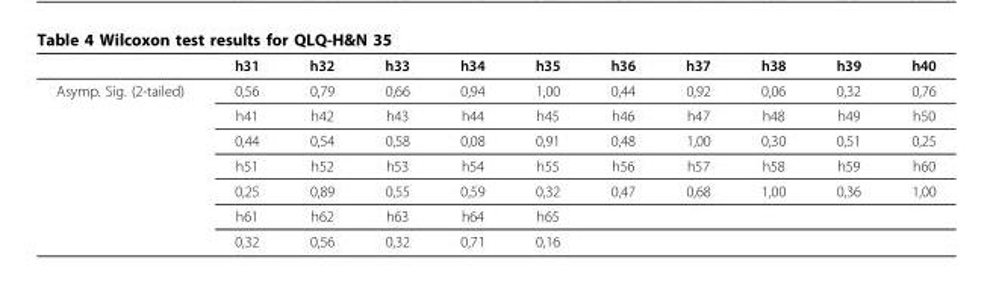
<table><thead><tr><td></td><td>h31</td><td>h32</td><td>h33</td><td>h34</td><td>h35</td><td>h36</td><td>h37</td><td>h38</td><td>h39</td><td>h40</td></tr></thead><tbody><tr><td rowspan="7">Asymp. Sig. (2-tailed)</td><td>0,56</td><td>0,79</td><td>0,66</td><td>0,94</td><td>1,00</td><td>0,44</td><td>0,92</td><td>0,06</td><td>0,32</td><td>0,76</td></tr><tr><td>h41</td><td>h42</td><td>h43</td><td>h44</td><td>h45</td><td>h46</td><td>h47</td><td>h48</td><td>h49</td><td>h50</td></tr><tr><td>0,44</td><td>0,54</td><td>0,58</td><td>0,08</td><td>0,91</td><td>0,48</td><td>1,00</td><td>0,30</td><td>0,51</td><td>0,25</td></tr><tr><td>h51</td><td>h52</td><td>h53</td><td>h54</td><td>h55</td><td>h56</td><td>h57</td><td>h58</td><td>h59</td><td>h60</td></tr><tr><td>0,25</td><td>0,89</td><td>0,55</td><td>0,59</td><td>0,32</td><td>0,47</td><td>0,68</td><td>1,00</td><td>0,36</td><td>1,00</td></tr><tr><td>h61</td><td>h62</td><td>h63</td><td>h64</td><td>h65</td><td></td><td></td><td></td><td></td><td></td></tr><tr><td>0,32</td><td>0,56</td><td>0,32</td><td>0,71</td><td>0,16</td><td></td><td></td><td></td><td></td><td></td></tr></tbody></table>